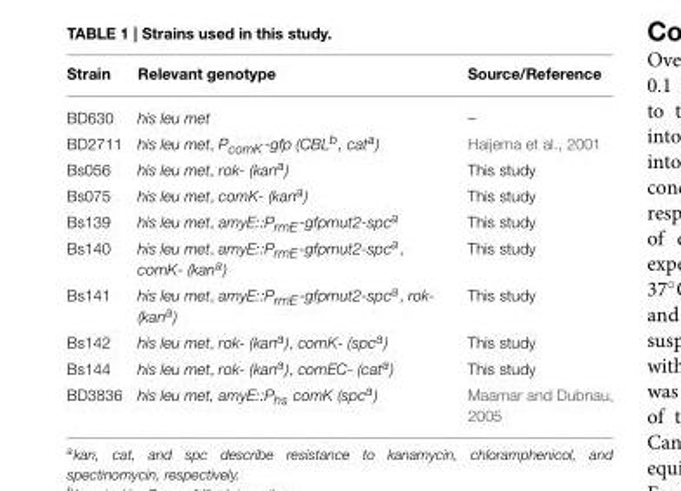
<table><thead><tr><td>Strain</td><td>Relevant genotype</td><td>Source/Reference</td></tr></thead><tbody><tr><td>BD630</td><td>his leu met</td><td>–</td></tr><tr><td>BD2711</td><td>his leu met, PcomK-gfp (CBLb, cata)</td><td>Haijema et al., 2001</td></tr><tr><td>Bs056</td><td>his leu met, rok- (kana)</td><td>This study</td></tr><tr><td>Bs075</td><td>his leu met, comK- (kana)</td><td>This study</td></tr><tr><td>Bs139</td><td>his leu met, amyE::PrrnE-gfpmut2-spca</td><td>This study</td></tr><tr><td>Bs140</td><td>his leu met, amyE::PrrnE-gfpmut2-spca, comK- (kana)</td><td>This study</td></tr><tr><td>Bs141</td><td>his leu met, amyE::PrrnE-gfpmut2-spca, rok- (kana)</td><td>This study</td></tr><tr><td>Bs142</td><td>his leu met, rok- (kana), comK- (spca)</td><td>This study</td></tr><tr><td>Bs144</td><td>his leu met, rok- (kana), comEC- (cata)</td><td>This study</td></tr><tr><td>BD3836</td><td>his leu met, amyE::Phs comK (spca)</td><td>Maamar and Dubnau, 2005</td></tr></tbody></table>